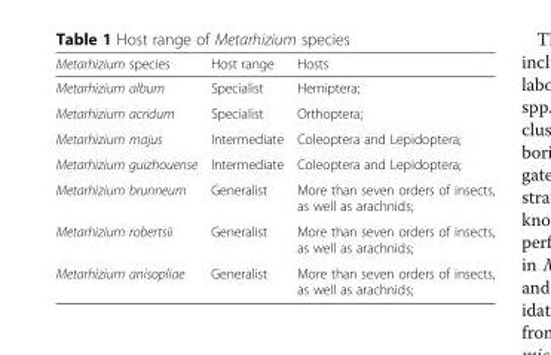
<table><thead><tr><td>Metarhizium species</td><td>Host range</td><td>Hosts</td></tr></thead><tbody><tr><td>Metarhizium album</td><td>Specialist</td><td>Hemiptera;</td></tr><tr><td>Metarhizium acridum</td><td>Specialist</td><td>Orthoptera;</td></tr><tr><td>Metarhizium majus</td><td>Intermediate</td><td>Coleoptera and Lepidoptera;</td></tr><tr><td>Metarhizium guizhouense</td><td>Intermediate</td><td>Coleoptera and Lepidoptera;</td></tr><tr><td>Metarhizium brunneum</td><td>Generalist</td><td>More than seven orders of insects, as well as arachnids;</td></tr><tr><td>Metarhizium robertsii</td><td>Generalist</td><td>More than seven orders of insects, as well as arachnids;</td></tr><tr><td>Metarhizium anisopliae</td><td>Generalist</td><td>More than seven orders of insects, as well as arachnids;</td></tr></tbody></table>